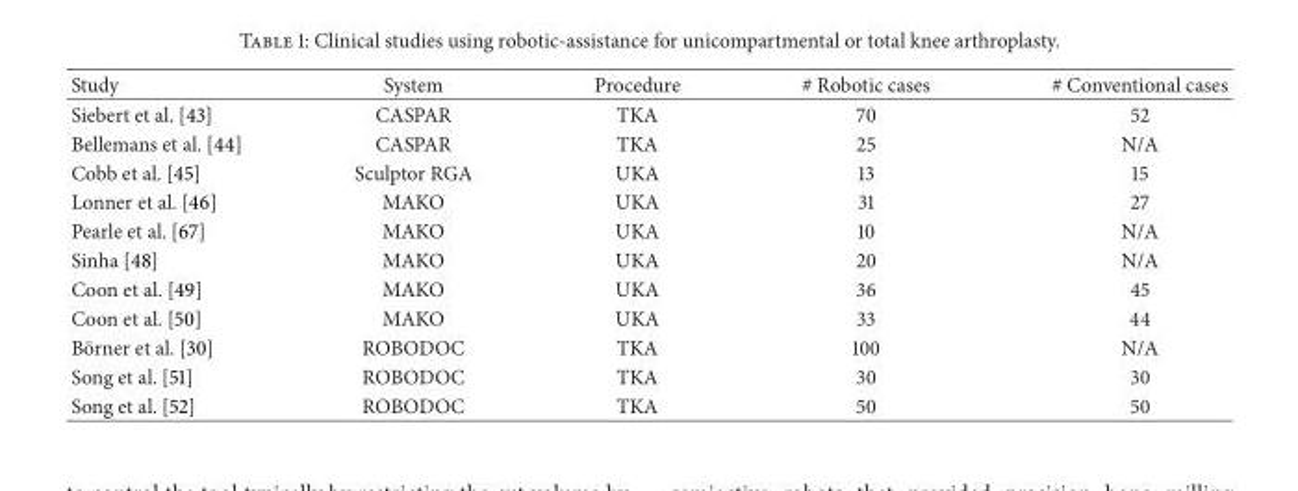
<table><thead><tr><td>Study</td><td>System</td><td>Procedure</td><td># Robotic cases</td><td># Conventional cases</td></tr></thead><tbody><tr><td>Siebert et al. [43]</td><td>CASPAR</td><td>TKA</td><td>70</td><td>52</td></tr><tr><td>Bellemans et al. [44]</td><td>CASPAR</td><td>TKA</td><td>25</td><td>N/A</td></tr><tr><td>Cobb et al. [45]</td><td>Sculptor RGA</td><td>UKA</td><td>13</td><td>15</td></tr><tr><td>Lonner et al. [46]</td><td>MAKO</td><td>UKA</td><td>31</td><td>27</td></tr><tr><td>Pearle et al. [67]</td><td>MAKO</td><td>UKA</td><td>10</td><td>N/A</td></tr><tr><td>Sinha [48]</td><td>MAKO</td><td>UKA</td><td>20</td><td>N/A</td></tr><tr><td>Coon et al. [49]</td><td>MAKO</td><td>UKA</td><td>36</td><td>45</td></tr><tr><td>Coon et al. [50]</td><td>MAKO</td><td>UKA</td><td>33</td><td>44</td></tr><tr><td>B¨orner et al. [30]</td><td>ROBODOC</td><td>TKA</td><td>100</td><td>N/A</td></tr><tr><td>Song et al. [51]</td><td>ROBODOC</td><td>TKA</td><td>30</td><td>30</td></tr><tr><td>Song et al. [52]</td><td>ROBODOC</td><td>TKA</td><td>50</td><td>50</td></tr></tbody></table>